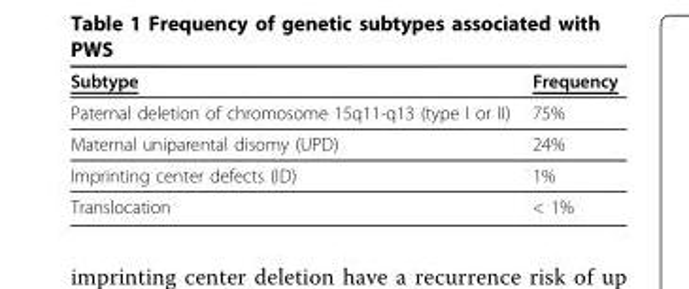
<table><thead><tr><td>Subtype</td><td>Frequency</td></tr></thead><tbody><tr><td>Paternal deletion of chromosome 15q11-q13 (type I or II)</td><td>75%</td></tr><tr><td>Maternal uniparental disomy (UPD)</td><td>24%</td></tr><tr><td>Imprinting center defects (ID)</td><td>1%</td></tr><tr><td>Translocation</td><td>&lt; 1%</td></tr></tbody></table>